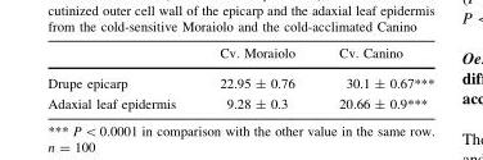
<table><thead><tr><td></td><td>Cv. Moraiolo</td><td>Cv. Canino</td></tr></thead><tbody><tr><td>Drupe epicarp</td><td>22.95 ± 0.76</td><td>30.1 ± 0.67***</td></tr><tr><td>Adaxial leaf epidermis</td><td>9.28 ± 0.3</td><td>20.66 ± 0.9***</td></tr></tbody></table>